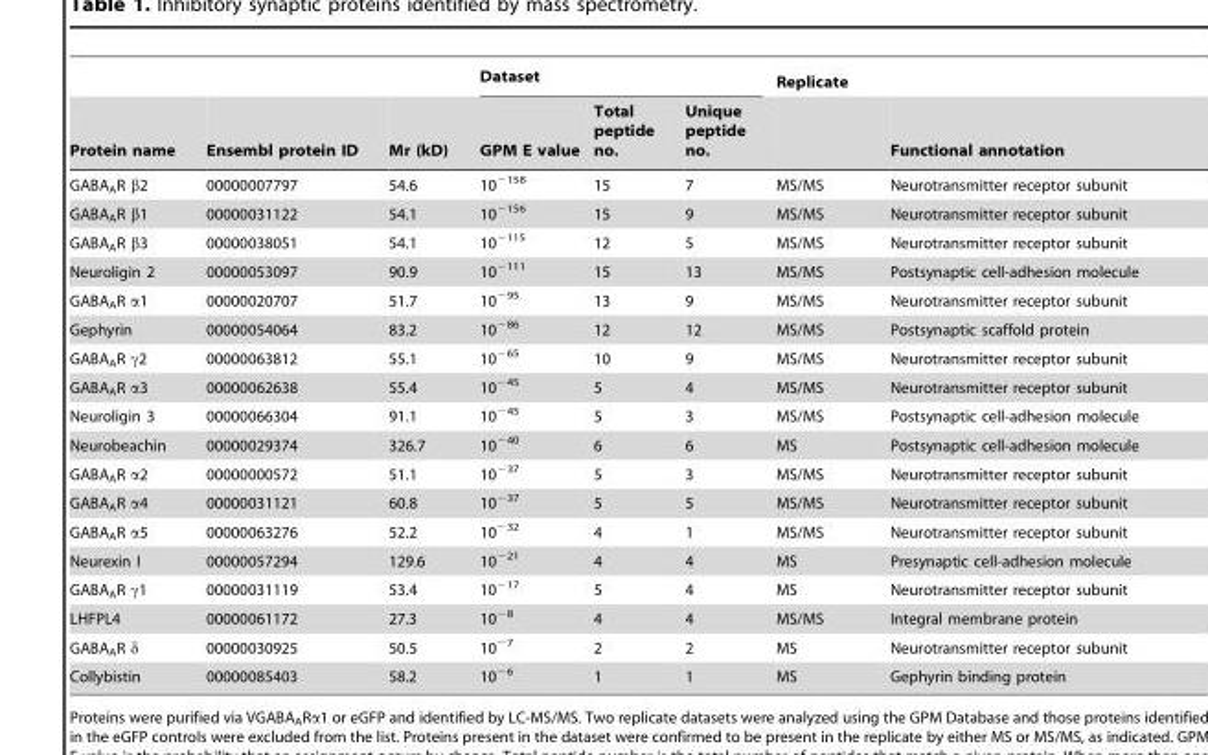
<table><thead><tr><td rowspan="2">Protein name</td><td rowspan="2">Ensembl protein ID</td><td rowspan="2">Mr (kD)</td><td colspan="3">Dataset</td><td rowspan="2">Replicate</td><td rowspan="2">Functional annotation</td></tr><tr><td>GPM E value</td><td>Total peptide no.</td><td>Unique peptide no.</td></tr></thead><tbody><tr><td>GABA<sub>A</sub>R β2</td><td>00000007797</td><td>54.6</td><td>10<sup>−158</sup></td><td>15</td><td>7</td><td>MS/MS</td><td>Neurotransmitter receptor subunit</td></tr><tr><td>GABA<sub>A</sub>R β1</td><td>00000031122</td><td>54.1</td><td>10<sup>−156</sup></td><td>15</td><td>9</td><td>MS/MS</td><td>Neurotransmitter receptor subunit</td></tr><tr><td>GABA<sub>A</sub>R β3</td><td>00000038051</td><td>54.1</td><td>10<sup>−115</sup></td><td>12</td><td>5</td><td>MS/MS</td><td>Neurotransmitter receptor subunit</td></tr><tr><td>Neuroligin 2</td><td>00000053097</td><td>90.9</td><td>10<sup>−111</sup></td><td>15</td><td>13</td><td>MS/MS</td><td>Postsynaptic cell-adhesion molecule</td></tr><tr><td>GABA<sub>A</sub>R α1</td><td>00000020707</td><td>51.7</td><td>10<sup>−95</sup></td><td>13</td><td>9</td><td>MS/MS</td><td>Neurotransmitter receptor subunit</td></tr><tr><td>Gephyrin</td><td>00000054064</td><td>83.2</td><td>10<sup>−86</sup></td><td>12</td><td>12</td><td>MS/MS</td><td>Postsynaptic scaffold protein</td></tr><tr><td>GABA<sub>A</sub>R γ2</td><td>00000063812</td><td>55.1</td><td>10<sup>−65</sup></td><td>10</td><td>9</td><td>MS/MS</td><td>Neurotransmitter receptor subunit</td></tr><tr><td>GABA<sub>A</sub>R α3</td><td>00000062638</td><td>55.4</td><td>10<sup>−45</sup></td><td>5</td><td>4</td><td>MS/MS</td><td>Neurotransmitter receptor subunit</td></tr><tr><td>Neuroligin 3</td><td>00000066304</td><td>91.1</td><td>10<sup>−45</sup></td><td>5</td><td>3</td><td>MS/MS</td><td>Postsynaptic cell-adhesion molecule</td></tr><tr><td>Neurobeachin</td><td>00000029374</td><td>326.7</td><td>10<sup>−40</sup></td><td>6</td><td>6</td><td>MS</td><td>Postsynaptic cell-adhesion molecule</td></tr><tr><td>GABA<sub>A</sub>R α2</td><td>00000000572</td><td>51.1</td><td>10<sup>−37</sup></td><td>5</td><td>3</td><td>MS/MS</td><td>Neurotransmitter receptor subunit</td></tr><tr><td>GABA<sub>A</sub>R α4</td><td>00000031121</td><td>60.8</td><td>10<sup>−37</sup></td><td>5</td><td>5</td><td>MS/MS</td><td>Neurotransmitter receptor subunit</td></tr><tr><td>GABA<sub>A</sub>R α5</td><td>00000063276</td><td>52.2</td><td>10<sup>−32</sup></td><td>4</td><td>1</td><td>MS/MS</td><td>Neurotransmitter receptor subunit</td></tr><tr><td>Neurexin I</td><td>00000057294</td><td>129.6</td><td>10<sup>−21</sup></td><td>4</td><td>4</td><td>MS</td><td>Presynaptic cell-adhesion molecule</td></tr><tr><td>GABA<sub>A</sub>R γ1</td><td>00000031119</td><td>53.4</td><td>10<sup>−17</sup></td><td>5</td><td>4</td><td>MS</td><td>Neurotransmitter receptor subunit</td></tr><tr><td>LHFPL4</td><td>00000061172</td><td>27.3</td><td>10<sup>−8</sup></td><td>4</td><td>4</td><td>MS/MS</td><td>Integral membrane protein</td></tr><tr><td>GABA<sub>A</sub>R δ</td><td>00000030925</td><td>50.5</td><td>10<sup>−7</sup></td><td>2</td><td>2</td><td>MS</td><td>Neurotransmitter receptor subunit</td></tr><tr><td>Collybistin</td><td>00000085403</td><td>58.2</td><td>10<sup>−6</sup></td><td>1</td><td>1</td><td>MS</td><td>Gephyrin binding protein</td></tr></tbody></table>